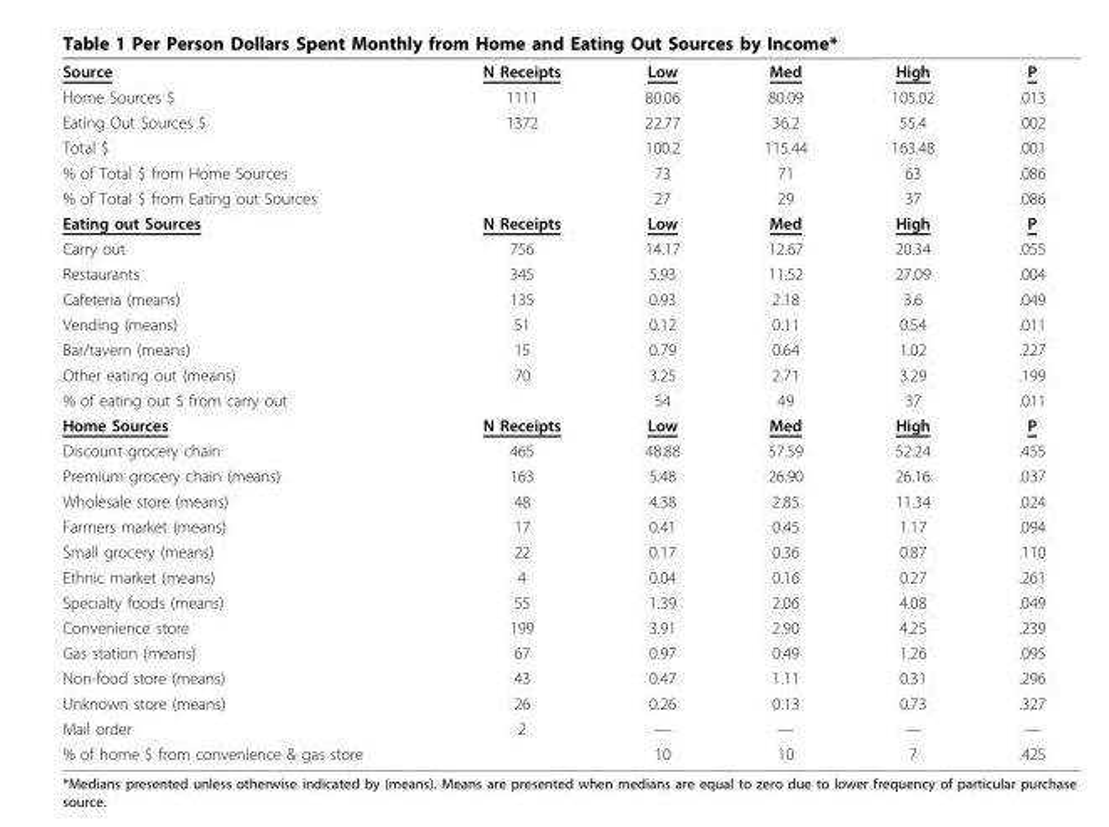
<table><tbody><tr><td>Source</td><td>N Receipts</td><td>Low</td><td>Med</td><td>High</td><td>P</td></tr><tr><td>Home Sources $</td><td>1111</td><td>80.06</td><td>80.09</td><td>105.02</td><td>.013</td></tr><tr><td>Eating Out Sources $</td><td>1372</td><td>22.77</td><td>36.2</td><td>55.4</td><td>.002</td></tr><tr><td>Total $</td><td></td><td>100.2</td><td>115.44</td><td>163.48</td><td>.001</td></tr><tr><td>% of Total $ from Home Sources</td><td></td><td>73</td><td>71</td><td>63</td><td>.086</td></tr><tr><td>% of Total $ from Eating out Sources</td><td></td><td>27</td><td>29</td><td>37</td><td>.086</td></tr><tr><td>Eating out Sources</td><td>N Receipts</td><td>Low</td><td>Med</td><td>High</td><td>P</td></tr><tr><td>Carry out</td><td>756</td><td>14.17</td><td>12.67</td><td>20.34</td><td>.055</td></tr><tr><td>Restaurants</td><td>345</td><td>5.93</td><td>11.52</td><td>27.09</td><td>.004</td></tr><tr><td>Cafeteria (means)</td><td>135</td><td>0.93</td><td>2.18</td><td>3.6</td><td>.049</td></tr><tr><td>Vending (means)</td><td>51</td><td>0.12</td><td>0.11</td><td>0.54</td><td>.011</td></tr><tr><td>Bar/tavern (means)</td><td>15</td><td>0.79</td><td>0.64</td><td>1.02</td><td>.227</td></tr><tr><td>Other eating out (means)</td><td>70</td><td>3.25</td><td>2.71</td><td>3.29</td><td>.199</td></tr><tr><td>% of eating out $ from carry out</td><td></td><td>54</td><td>49</td><td>37</td><td>.011</td></tr><tr><td>Home Sources</td><td>N Receipts</td><td>Low</td><td>Med</td><td>High</td><td>P</td></tr><tr><td>Discount grocery chain</td><td>465</td><td>48.88</td><td>57.59</td><td>52.24</td><td>.455</td></tr><tr><td>Premium grocery chain (means)</td><td>163</td><td>5.48</td><td>26.90</td><td>26.16</td><td>.037</td></tr><tr><td>Wholesale store (means)</td><td>48</td><td>4.38</td><td>2.85</td><td>11.34</td><td>.024</td></tr><tr><td>Farmers market (means)</td><td>17</td><td>0.41</td><td>0.45</td><td>1.17</td><td>.094</td></tr><tr><td>Small grocery (means)</td><td>22</td><td>0.17</td><td>0.36</td><td>0.87</td><td>.110</td></tr><tr><td>Ethnic market (means)</td><td>4</td><td>0.04</td><td>0.16</td><td>0.27</td><td>.261</td></tr><tr><td>Specialty foods (means)</td><td>55</td><td>1.39</td><td>2.06</td><td>4.08</td><td>.049</td></tr><tr><td>Convenience store</td><td>199</td><td>3.91</td><td>2.90</td><td>4.25</td><td>.239</td></tr><tr><td>Gas station (means)</td><td>67</td><td>0.97</td><td>0.49</td><td>1.26</td><td>.095</td></tr><tr><td>Non-food store (means)</td><td>43</td><td>0.47</td><td>1.11</td><td>0.31</td><td>.296</td></tr><tr><td>Unknown store (means)</td><td>26</td><td>0.26</td><td>0.13</td><td>0.73</td><td>.327</td></tr><tr><td>Mail order</td><td>2</td><td>—</td><td>—</td><td>—</td><td>—</td></tr><tr><td>% of home $ from convenience &amp; gas store</td><td></td><td>10</td><td>10</td><td>7</td><td>.425</td></tr></tbody></table>